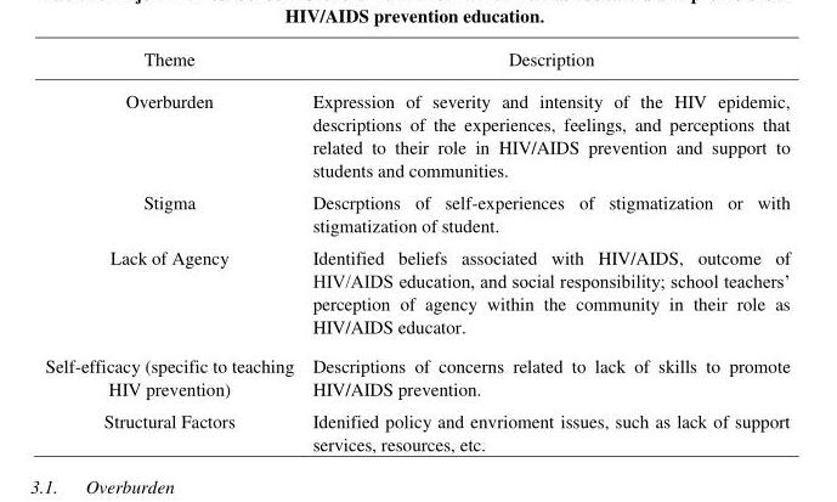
<table><thead><tr><td>Theme</td><td>Description</td></tr></thead><tbody><tr><td>Overburden</td><td>Expression of severity and intensity of the HIV epidemic, descriptions of the experiences, feelings, and perceptions that related to their role in HIV/AIDS prevention and support to students and communities.</td></tr><tr><td>Stigma</td><td>Descrptions of self-experiences of stigmatization or with stigmatization of student.</td></tr><tr><td>Lack of Agency</td><td>Identified beliefs associated with HIV/AIDS, outcome of HIV/AIDS education, and social responsibility; school teachers’ perception of agency within the community in their role as HIV/AIDS educator.</td></tr><tr><td>Self-efficacy (specific to teaching HIV prevention)</td><td>Descriptions of concerns related to lack of skills to promote HIV/AIDS prevention.</td></tr><tr><td>Structural Factors</td><td>Idenified policy and envrioment issues, such as lack of support services, resources, etc.</td></tr></tbody></table>